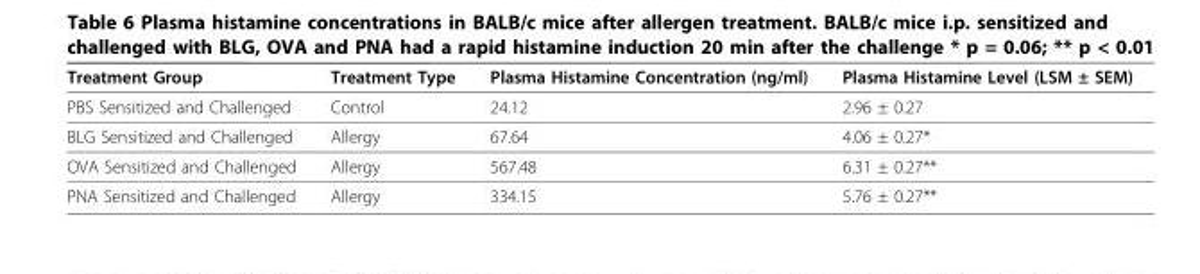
<table><thead><tr><td>Treatment Group</td><td>Treatment Type</td><td>Plasma Histamine Concentration (ng/ml)</td><td>Plasma Histamine Level (LSM ± SEM)</td></tr></thead><tbody><tr><td>PBS Sensitized and Challenged</td><td>Control</td><td>24.12</td><td>2.96 ± 0.27</td></tr><tr><td>BLG Sensitized and Challenged</td><td>Allergy</td><td>67.64</td><td>4.06 ± 0.27*</td></tr><tr><td>OVA Sensitized and Challenged</td><td>Allergy</td><td>567.48</td><td>6.31 ± 0.27**</td></tr><tr><td>PNA Sensitized and Challenged</td><td>Allergy</td><td>334.15</td><td>5.76 ± 0.27**</td></tr></tbody></table>